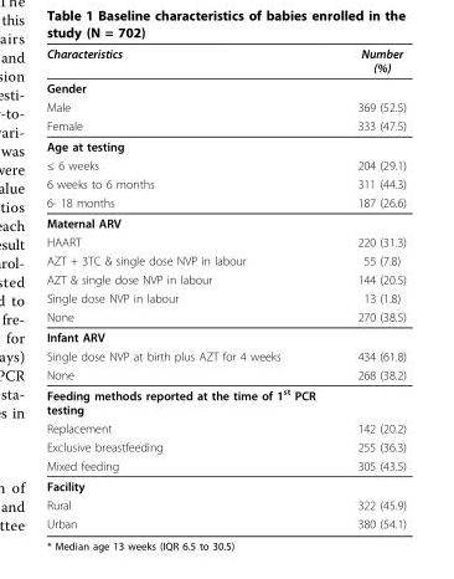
<table><thead><tr><td>Characteristics</td><td>Number (%)</td></tr></thead><tbody><tr><td colspan="2">Gender</td></tr><tr><td>Male</td><td>369 (52.5)</td></tr><tr><td>Female</td><td>333 (47.5)</td></tr><tr><td colspan="2">Age at testing</td></tr><tr><td>≤ 6 weeks</td><td>204 (29.1)</td></tr><tr><td>6 weeks to 6 months</td><td>311 (44.3)</td></tr><tr><td>6- 18 months</td><td>187 (26.6)</td></tr><tr><td colspan="2">Maternal ARV</td></tr><tr><td>HAART</td><td>220 (31.3)</td></tr><tr><td>AZT + 3TC &amp; single dose NVP in labour</td><td>55 (7.8)</td></tr><tr><td>AZT &amp; single dose NVP in labour</td><td>144 (20.5)</td></tr><tr><td>Single dose NVP in labour</td><td>13 (1.8)</td></tr><tr><td>None</td><td>270 (38.5)</td></tr><tr><td colspan="2">Infant ARV</td></tr><tr><td>Single dose NVP at birth plus AZT for 4 weeks</td><td>434 (61.8)</td></tr><tr><td>None</td><td>268 (38.2)</td></tr><tr><td colspan="2">Feeding methods reported at the time of 1<sup>st</sup> PCR testing</td></tr><tr><td>Replacement</td><td>142 (20.2)</td></tr><tr><td>Exclusive breastfeeding</td><td>255 (36.3)</td></tr><tr><td>Mixed feeding</td><td>305 (43.5)</td></tr><tr><td colspan="2">Facility</td></tr><tr><td>Rural</td><td>322 (45.9)</td></tr><tr><td>Urban</td><td>380 (54.1)</td></tr></tbody></table>